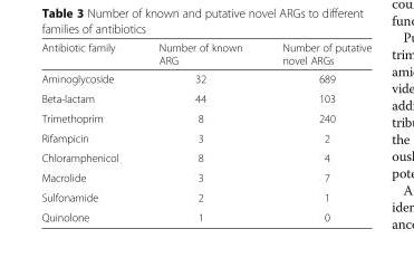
<table><thead><tr><td>Antibiotic family</td><td>Number of known ARG</td><td>Number of putative novel ARGs</td></tr></thead><tbody><tr><td>Aminoglycoside</td><td>32</td><td>689</td></tr><tr><td>Beta-lactam</td><td>44</td><td>103</td></tr><tr><td>Trimethoprim</td><td>8</td><td>240</td></tr><tr><td>Rifampicin</td><td>3</td><td>2</td></tr><tr><td>Chloramphenicol</td><td>8</td><td>4</td></tr><tr><td>Macrolide</td><td>3</td><td>7</td></tr><tr><td>Sulfonamide</td><td>2</td><td>1</td></tr><tr><td>Quinolone</td><td>1</td><td>0</td></tr></tbody></table>